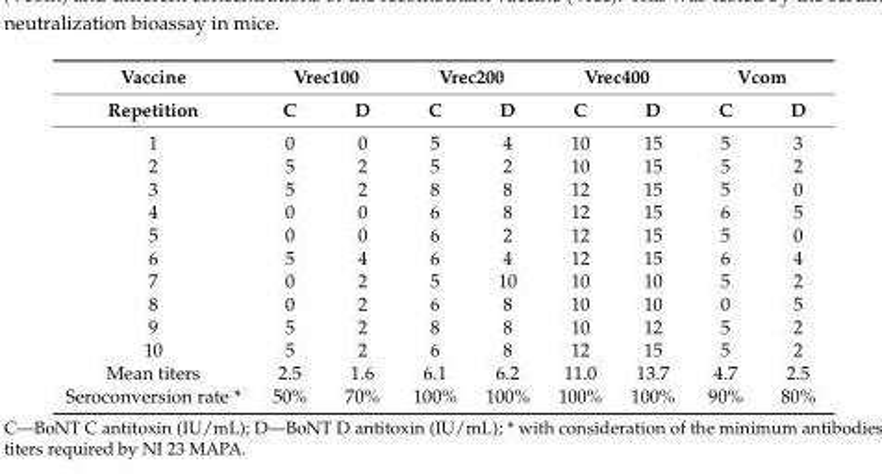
<table><thead><tr><td rowspan="2">Vaccine Repetition</td><td colspan="2">Vrec100</td><td colspan="2">Vrec200</td><td colspan="2">Vrec400</td><td colspan="2">Vcom</td></tr><tr><td>C</td><td>D</td><td>C</td><td>D</td><td>C</td><td>D</td><td>C</td><td>D</td></tr></thead><tbody><tr><td>1</td><td>0</td><td>0</td><td>5</td><td>4</td><td>10</td><td>15</td><td>5</td><td>3</td></tr><tr><td>2</td><td>5</td><td>2</td><td>5</td><td>2</td><td>10</td><td>15</td><td>5</td><td>2</td></tr><tr><td>3</td><td>5</td><td>2</td><td>8</td><td>8</td><td>12</td><td>15</td><td>5</td><td>0</td></tr><tr><td>4</td><td>0</td><td>0</td><td>6</td><td>8</td><td>12</td><td>15</td><td>6</td><td>5</td></tr><tr><td>5</td><td>0</td><td>0</td><td>6</td><td>2</td><td>12</td><td>15</td><td>5</td><td>0</td></tr><tr><td>6</td><td>5</td><td>4</td><td>6</td><td>4</td><td>12</td><td>15</td><td>6</td><td>4</td></tr><tr><td>7</td><td>0</td><td>2</td><td>5</td><td>10</td><td>10</td><td>10</td><td>5</td><td>2</td></tr><tr><td>8</td><td>0</td><td>2</td><td>6</td><td>8</td><td>10</td><td>10</td><td>0</td><td>5</td></tr><tr><td>9</td><td>5</td><td>2</td><td>8</td><td>8</td><td>10</td><td>12</td><td>5</td><td>2</td></tr><tr><td>10</td><td>5</td><td>2</td><td>6</td><td>8</td><td>12</td><td>15</td><td>5</td><td>2</td></tr><tr><td>Mean titers</td><td>2.5</td><td>1.6</td><td>6.1</td><td>6.2</td><td>11.0</td><td>13.7</td><td>4.7</td><td>2.5</td></tr><tr><td>Seroconversion rate *</td><td>50%</td><td>70%</td><td>100%</td><td>100%</td><td>100%</td><td>100%</td><td>90%</td><td>80%</td></tr></tbody></table>